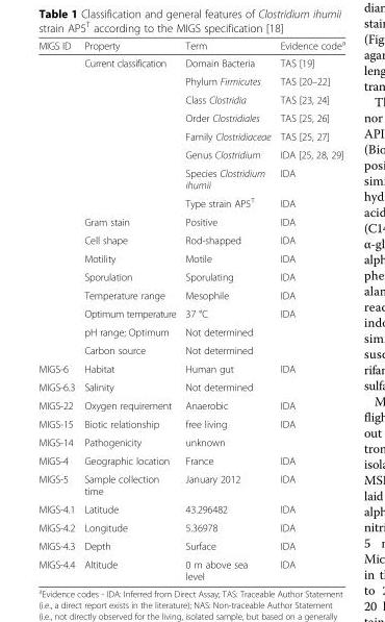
<table><thead><tr><td>MIGS ID</td><td>Property</td><td>Term</td><td>Evidence code<sup>a</sup></td></tr></thead><tbody><tr><td></td><td>Current classification</td><td>Domain Bacteria</td><td>TAS [19]</td></tr><tr><td></td><td></td><td>Phylum Firmicutes</td><td>TAS [20–22]</td></tr><tr><td></td><td></td><td>Class Clostridia</td><td>TAS [23, 24]</td></tr><tr><td></td><td></td><td>Order Clostridiales</td><td>TAS [25, 26]</td></tr><tr><td></td><td></td><td>Family Clostridiaceae</td><td>TAS [25, 27]</td></tr><tr><td></td><td></td><td>Genus Clostridium</td><td>IDA [25, 28, 29]</td></tr><tr><td></td><td></td><td>Species Clostridium ihumii</td><td>IDA</td></tr><tr><td></td><td></td><td>Type strain AP5<sup>T</sup></td><td>IDA</td></tr><tr><td></td><td>Gram stain</td><td>Positive</td><td>IDA</td></tr><tr><td></td><td>Cell shape</td><td>Rod-shapped</td><td>IDA</td></tr><tr><td></td><td>Motility</td><td>Motile</td><td>IDA</td></tr><tr><td></td><td>Sporulation</td><td>Sporulating</td><td>IDA</td></tr><tr><td></td><td>Temperature range</td><td>Mesophile</td><td>IDA</td></tr><tr><td></td><td>Optimum temperature</td><td>37 °C</td><td>IDA</td></tr><tr><td></td><td>pH range; Optimum</td><td>Not determined</td><td></td></tr><tr><td></td><td>Carbon source</td><td>Not determined</td><td></td></tr><tr><td>MIGS-6</td><td>Habitat</td><td>Human gut</td><td>IDA</td></tr><tr><td>MIGS-6.3</td><td>Salinity</td><td>Not determined</td><td></td></tr><tr><td>MIGS-22</td><td>Oxygen requirement</td><td>Anaerobic</td><td>IDA</td></tr><tr><td>MIGS-15</td><td>Biotic relationship</td><td>free living</td><td>IDA</td></tr><tr><td>MIGS-14</td><td>Pathogenicity</td><td>unknown</td><td></td></tr><tr><td>MIGS-4</td><td>Geographic location</td><td>France</td><td>IDA</td></tr><tr><td>MIGS-5</td><td>Sample collection time</td><td>January 2012</td><td>IDA</td></tr><tr><td>MIGS-4.1</td><td>Latitude</td><td>43.296482</td><td>IDA</td></tr><tr><td>MIGS-4.2</td><td>Longitude</td><td>5.36978</td><td>IDA</td></tr><tr><td>MIGS-4.3</td><td>Depth</td><td>Surface</td><td>IDA</td></tr><tr><td>MIGS-4.4</td><td>Altitude</td><td>0 m above sea level</td><td>IDA</td></tr></tbody></table>